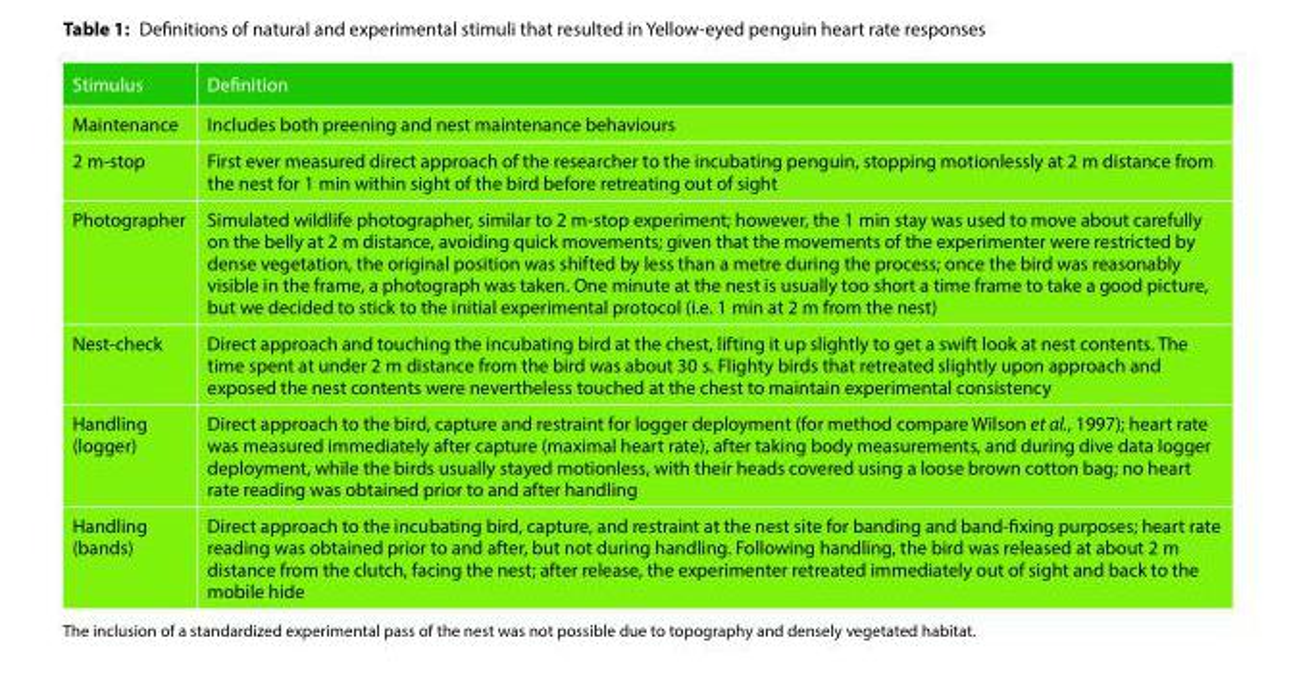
<table><thead><tr><td>Stimulus</td><td>Definition</td></tr></thead><tbody><tr><td>Maintenance</td><td>Includes both preening and nest maintenance behaviours</td></tr><tr><td>2 m-stop</td><td>First ever measured direct approach of the researcher to the incubating penguin, stopping motionlessly at 2 m distance from the nest for 1 min within sight of the bird before retreating out of sight</td></tr><tr><td>Photographer</td><td>Simulated wildlife photographer, similar to 2 m-stop experiment; however, the 1 min stay was used to move about carefully on the belly at 2 m distance, avoiding quick movements; given that the movements of the experimenter were restricted by dense vegetation, the original position was shifted by less than a metre during the process; once the bird was reasonably visible in the frame, a photograph was taken. One minute at the nest is usually too short a time frame to take a good picture, but we decided to stick to the initial experimental protocol (i.e. 1 min at 2 m from the nest)</td></tr><tr><td>Nest-check</td><td>Direct approach and touching the incubating bird at the chest, lifting it up slightly to get a swift look at nest contents. The time spent at under 2 m distance from the bird was about 30 s. Flighty birds that retreated slightly upon approach and exposed the nest contents were nevertheless touched at the chest to maintain experimental consistency</td></tr><tr><td>Handling (logger)</td><td>Direct approach to the bird, capture and restraint for logger deployment (for method compare Wilson et al., 1997); heart rate was measured immediately after capture (maximal heart rate), after taking body measurements, and during dive data logger deployment, while the birds usually stayed motionless, with their heads covered using a loose brown cotton bag; no heart rate reading was obtained prior to and after handling</td></tr><tr><td>Handling (bands)</td><td>Direct approach to the incubating bird, capture, and restraint at the nest site for banding and band-fixing purposes; heart rate reading was obtained prior to and after, but not during handling. Following handling, the bird was released at about 2 m distance from the clutch, facing the nest; after release, the experimenter retreated immediately out of sight and back to the mobile hide</td></tr></tbody></table>